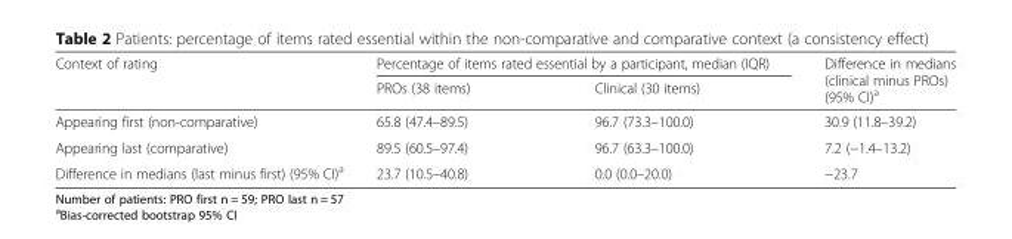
<table><thead><tr><td rowspan="2">Context of rating</td><td colspan="2">Percentage of items rated essential by a participant, median (IQR)</td><td rowspan="2">Difference in medians (clinical minus PROs) (95% CI)<sup>a</sup></td></tr><tr><td>PROs (38 items)</td><td>Clinical (30 items)</td></tr></thead><tbody><tr><td>Appearing first (non-comparative)</td><td>65.8 (47.4–89.5)</td><td>96.7 (73.3–100.0)</td><td>30.9 (11.8–39.2)</td></tr><tr><td>Appearing last (comparative)</td><td>89.5 (60.5–97.4)</td><td>96.7 (63.3–100.0)</td><td>7.2 (−1.4–13.2)</td></tr><tr><td>Difference in medians (last minus first) (95% CI)<sup>a</sup></td><td>23.7 (10.5–40.8)</td><td>0.0 (0.0–20.0)</td><td>−23.7</td></tr></tbody></table>